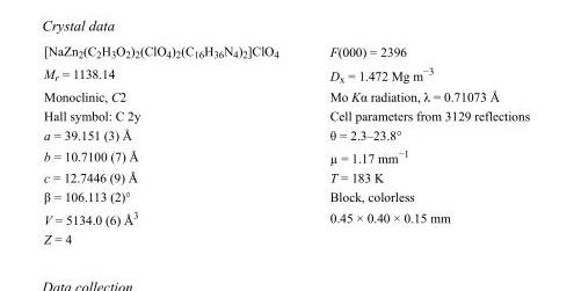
<table><tbody><tr><td>[NaZn<sub>2</sub>(C<sub>2</sub>H<sub>3</sub>O<sub>2</sub>)<sub>2</sub>(ClO<sub>4</sub>)<sub>2</sub>(C<sub>16</sub>H<sub>36</sub>N<sub>4</sub>)<sub>2</sub>]ClO<sub>4</sub></td><td>F(000) = 2396</td></tr><tr><td>M<sub>r</sub> = 1138.14</td><td>D<sub>x</sub> = 1.472 Mg m<sup>−3</sup></td></tr><tr><td>Monoclinic, C2</td><td>Mo Kα radiation, λ = 0.71073 Å</td></tr><tr><td>Hall symbol: C 2y</td><td>Cell parameters from 3129 reflections</td></tr><tr><td>a = 39.151 (3) Å</td><td>θ = 2.3–23.8°</td></tr><tr><td>b = 10.7100 (7) Å</td><td>µ = 1.17 mm<sup>−1</sup></td></tr><tr><td>c = 12.7446 (9) Å</td><td>T = 183 K</td></tr><tr><td>β = 106.113 (2)°</td><td>Block, colorless</td></tr><tr><td>V = 5134.0 (6) Å<sup>3</sup></td><td>0.45 × 0.40 × 0.15 mm</td></tr><tr><td>Z = 4</td><td></td></tr></tbody></table>